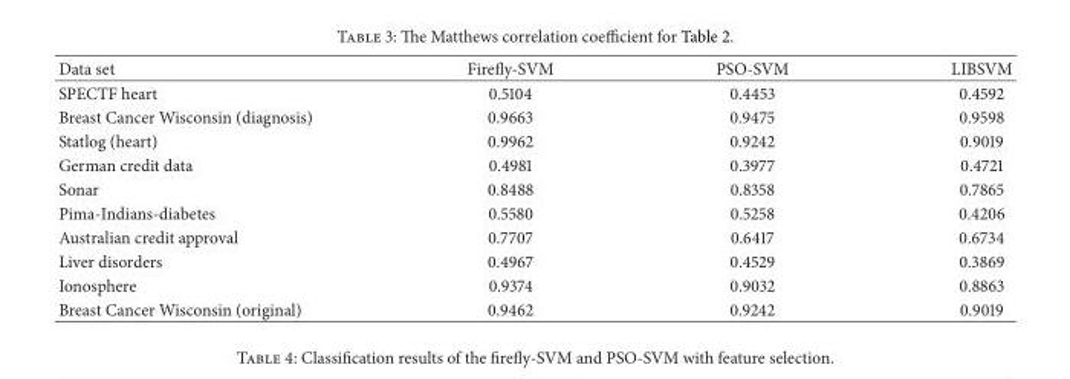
<table><thead><tr><td>Data set</td><td>Firefly-SVM</td><td>PSO-SVM</td><td>LIBSVM</td></tr></thead><tbody><tr><td>SPECTF heart</td><td>0.5104</td><td>0.4453</td><td>0.4592</td></tr><tr><td>Breast Cancer Wisconsin (diagnosis)</td><td>0.9663</td><td>0.9475</td><td>0.9598</td></tr><tr><td>Statlog (heart)</td><td>0.9962</td><td>0.9242</td><td>0.9019</td></tr><tr><td>German credit data</td><td>0.4981</td><td>0.3977</td><td>0.4721</td></tr><tr><td>Sonar</td><td>0.8488</td><td>0.8358</td><td>0.7865</td></tr><tr><td>Pima-Indians-diabetes</td><td>0.5580</td><td>0.5258</td><td>0.4206</td></tr><tr><td>Australian credit approval</td><td>0.7707</td><td>0.6417</td><td>0.6734</td></tr><tr><td>Liver disorders</td><td>0.4967</td><td>0.4529</td><td>0.3869</td></tr><tr><td>Ionosphere</td><td>0.9374</td><td>0.9032</td><td>0.8863</td></tr><tr><td>Breast Cancer Wisconsin (original)</td><td>0.9462</td><td>0.9242</td><td>0.9019</td></tr></tbody></table>